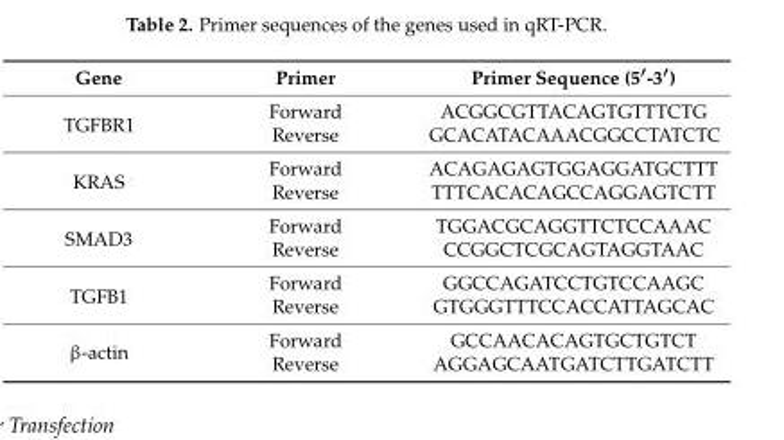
<table><thead><tr><td>Gene</td><td>Primer</td><td>Primer Sequence (5′-3′)</td></tr></thead><tbody><tr><td rowspan="2">TGFBR1</td><td>Forward</td><td>ACGGCGTTACAGTGTTTCTG</td></tr><tr><td>Reverse</td><td>GCACATACAAACGGCCTATCTC</td></tr><tr><td rowspan="2">KRAS</td><td>Forward</td><td>ACAGAGAGTGGAGGATGCTTT</td></tr><tr><td>Reverse</td><td>TTTCACACAGCCAGGAGTCTT</td></tr><tr><td rowspan="2">SMAD3</td><td>Forward</td><td>TGGACGCAGGTTCTCCAAAC</td></tr><tr><td>Reverse</td><td>CCGGCTCGCAGTAGGTAAC</td></tr><tr><td rowspan="2">TGFB1</td><td>Forward</td><td>GGCCAGATCCTGTCCAAGC</td></tr><tr><td>Reverse</td><td>GTGGGTTTCCACCATTAGCAC</td></tr><tr><td rowspan="2">β-actin</td><td>Forward</td><td>GCCAACACAGTGCTGTCT</td></tr><tr><td>Reverse</td><td>AGGAGCAATGATCTTGATCTT</td></tr></tbody></table>